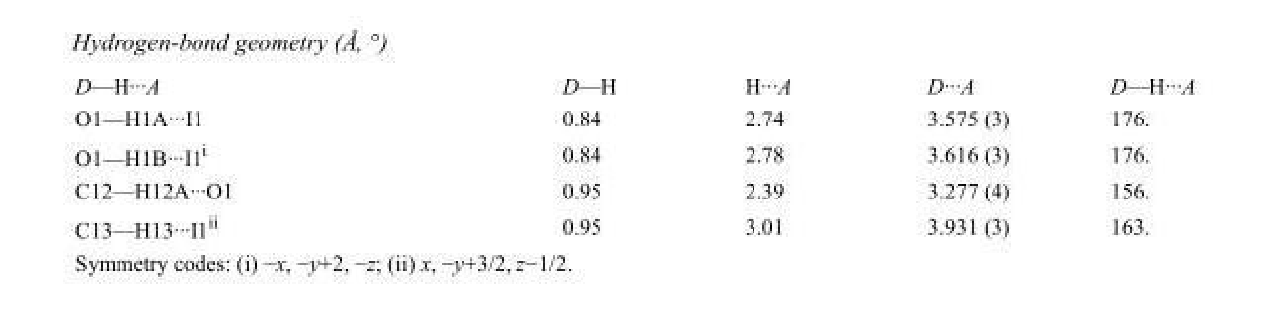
<table><tbody><tr><td>D—H···A</td><td>D—H</td><td>H···A</td><td>D···A</td><td>D—H···A</td></tr><tr><td>O1—H1A···I1</td><td>0.84</td><td>2.74</td><td>3.575 (3)</td><td>176.</td></tr><tr><td>O1—H1B···I1<sup>i</sup></td><td>0.84</td><td>2.78</td><td>3.616 (3)</td><td>176.</td></tr><tr><td>C12—H12A···O1</td><td>0.95</td><td>2.39</td><td>3.277 (4)</td><td>156.</td></tr><tr><td>C13—H13···I1<sup>ii</sup></td><td>0.95</td><td>3.01</td><td>3.931 (3)</td><td>163.</td></tr></tbody></table>